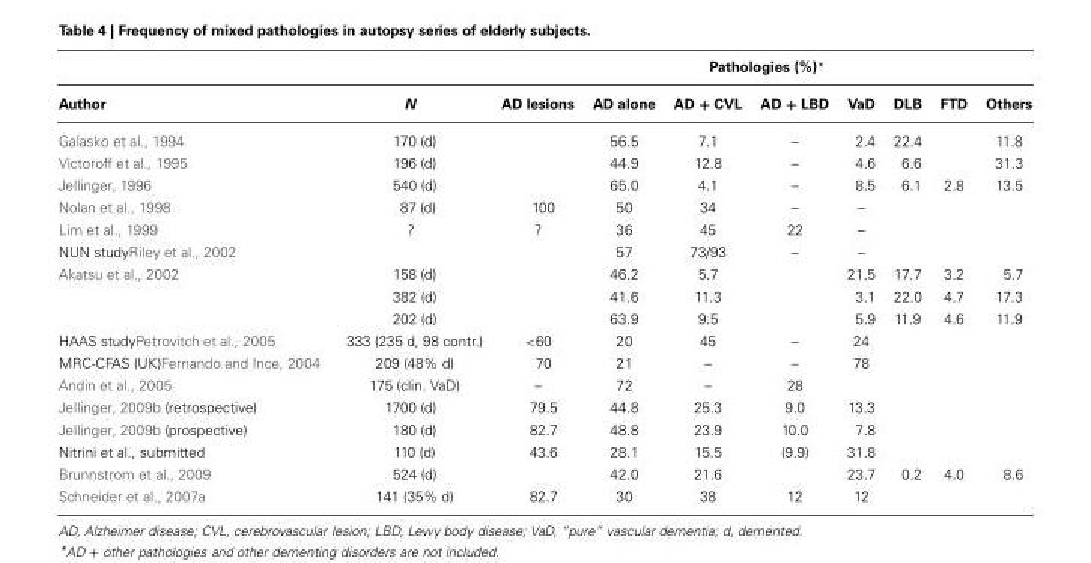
<table><thead><tr><td rowspan="2">Author</td><td rowspan="2">N</td><td colspan="8">Pathologies (%)*</td></tr><tr><td>AD lesions</td><td>AD alone</td><td>AD + CVL</td><td>AD + LBD</td><td>VaD</td><td>DLB</td><td>FTD</td><td>Others</td></tr></thead><tbody><tr><td>Galasko et al., 1994</td><td>170 (d)</td><td></td><td>56.5</td><td>7.1</td><td>–</td><td>2.4</td><td>22.4</td><td></td><td>11.8</td></tr><tr><td>Victoroff et al., 1995</td><td>196 (d)</td><td></td><td>44.9</td><td>12.8</td><td>–</td><td>4.6</td><td>6.6</td><td></td><td>31.3</td></tr><tr><td>Jellinger, 1996</td><td>540 (d)</td><td></td><td>65.0</td><td>4.1</td><td>–</td><td>8.5</td><td>6.1</td><td>2.8</td><td>13.5</td></tr><tr><td>Nolan et al., 1998</td><td>87 (d)</td><td>100</td><td>50</td><td>34</td><td>–</td><td>–</td><td></td><td></td><td></td></tr><tr><td>Lim et al., 1999</td><td>?</td><td>?</td><td>36</td><td>45</td><td>22</td><td>–</td><td></td><td></td><td></td></tr><tr><td>NUN studyRiley et al., 2002</td><td></td><td></td><td>57</td><td>73/93</td><td>–</td><td>–</td><td></td><td></td><td></td></tr><tr><td rowspan="3">Akatsu et al., 2002</td><td>158 (d)</td><td></td><td>46.2</td><td>5.7</td><td></td><td>21.5</td><td>17.7</td><td>3.2</td><td>5.7</td></tr><tr><td>382 (d)</td><td></td><td>41.6</td><td>11.3</td><td></td><td>3.1</td><td>22.0</td><td>4.7</td><td>17.3</td></tr><tr><td>202 (d)</td><td></td><td>63.9</td><td>9.5</td><td></td><td>5.9</td><td>11.9</td><td>4.6</td><td>11.9</td></tr><tr><td>HAAS studyPetrovitch et al., 2005</td><td>333 (235 d, 98 contr.)</td><td>&lt;60</td><td>20</td><td>45</td><td>–</td><td>24</td><td></td><td></td><td></td></tr><tr><td>MRC-CFAS (UK)Fernando and Ince, 2004</td><td>209 (48% d)</td><td>70</td><td>21</td><td>–</td><td>–</td><td>78</td><td></td><td></td><td></td></tr><tr><td>Andin et al., 2005</td><td>175 (clin. VaD)</td><td>–</td><td>72</td><td>–</td><td>28</td><td></td><td></td><td></td><td></td></tr><tr><td>Jellinger, 2009b (retrospective)</td><td>1700 (d)</td><td>79.5</td><td>44.8</td><td>25.3</td><td>9.0</td><td>13.3</td><td></td><td></td><td></td></tr><tr><td>Jellinger, 2009b (prospective)</td><td>180 (d)</td><td>82.7</td><td>48.8</td><td>23.9</td><td>10.0</td><td>7.8</td><td></td><td></td><td></td></tr><tr><td>Nitrini et al., submitted</td><td>110 (d)</td><td>43.6</td><td>28.1</td><td>15.5</td><td>(9.9)</td><td>31.8</td><td></td><td></td><td></td></tr><tr><td>Brunnstrom et al., 2009</td><td>524 (d)</td><td></td><td>42.0</td><td>21.6</td><td></td><td>23.7</td><td>0.2</td><td>4.0</td><td>8.6</td></tr><tr><td>Schneider et al., 2007a</td><td>141 (35% d)</td><td>82.7</td><td>30</td><td>38</td><td>12</td><td>12</td><td></td><td></td><td></td></tr></tbody></table>